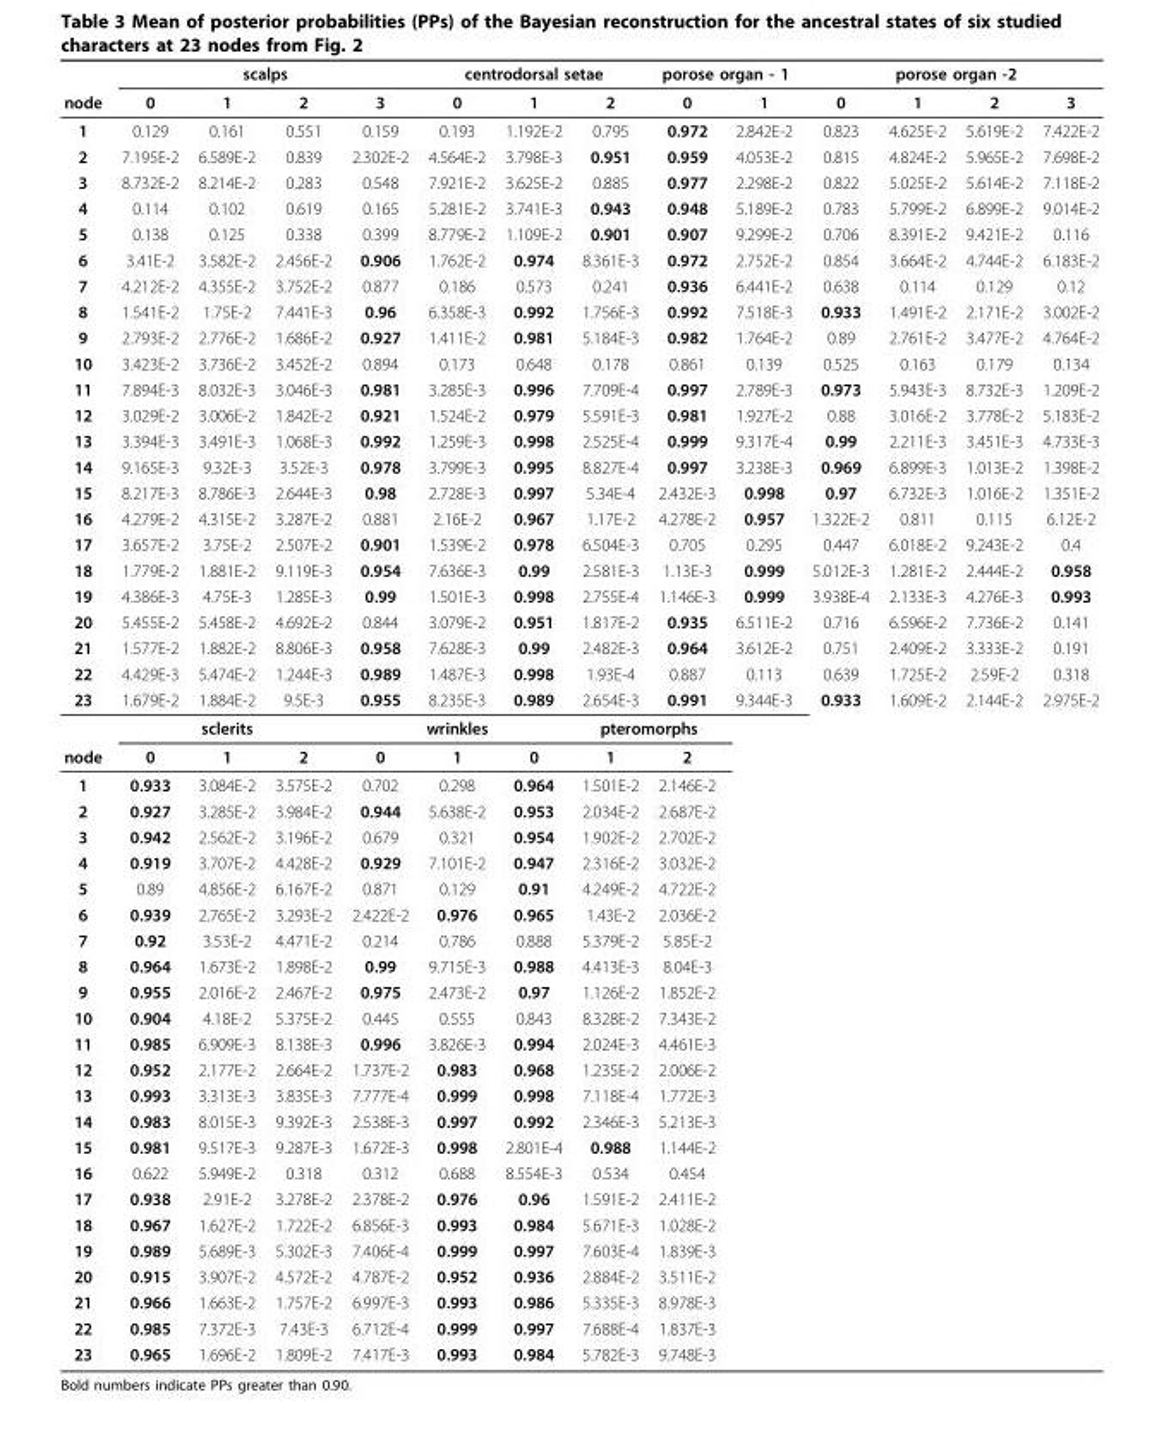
<table><thead><tr><td rowspan="2">node</td><td colspan="4">scalps</td><td colspan="3">centrodorsal setae</td><td colspan="2">porose organ - 1</td><td colspan="4">porose organ -2</td></tr><tr><td>0</td><td>1</td><td>2</td><td>3</td><td>0</td><td>1</td><td>2</td><td>0</td><td>1</td><td>0</td><td>1</td><td>2</td><td>3</td></tr></thead><tbody><tr><td>1</td><td>0.129</td><td>0.161</td><td>0.551</td><td>0.159</td><td>0.193</td><td>1.192E-2</td><td>0.795</td><td>0.972</td><td>2.842E-2</td><td>0.823</td><td>4.625E-2</td><td>5.619E-2</td><td>7.422E-2</td></tr><tr><td>2</td><td>7.195E-2</td><td>6.589E-2</td><td>0.839</td><td>2.302E-2</td><td>4.564E-2</td><td>3.798E-3</td><td>0.951</td><td>0.959</td><td>4.053E-2</td><td>0.815</td><td>4.824E-2</td><td>5.965E-2</td><td>7.698E-2</td></tr><tr><td>3</td><td>8.732E-2</td><td>8.214E-2</td><td>0.283</td><td>0.548</td><td>7.921E-2</td><td>3.625E-2</td><td>0.885</td><td>0.977</td><td>2.298E-2</td><td>0.822</td><td>5.025E-2</td><td>5.614E-2</td><td>7.118E-2</td></tr><tr><td>4</td><td>0.114</td><td>0.102</td><td>0.619</td><td>0.165</td><td>5.281E-2</td><td>3.741E-3</td><td>0.943</td><td>0.948</td><td>5.189E-2</td><td>0.783</td><td>5.799E-2</td><td>6.899E-2</td><td>9.014E-2</td></tr><tr><td>5</td><td>0.138</td><td>0.125</td><td>0.338</td><td>0.399</td><td>8.779E-2</td><td>1.109E-2</td><td>0.901</td><td>0.907</td><td>9.299E-2</td><td>0.706</td><td>8.391E-2</td><td>9.421E-2</td><td>0.116</td></tr><tr><td>6</td><td>3.41E-2</td><td>3.582E-2</td><td>2.456E-2</td><td>0.906</td><td>1.762E-2</td><td>0.974</td><td>8.361E-3</td><td>0.972</td><td>2.752E-2</td><td>0.854</td><td>3.664E-2</td><td>4.744E-2</td><td>6.183E-2</td></tr><tr><td>7</td><td>4.212E-2</td><td>4.355E-2</td><td>3.752E-2</td><td>0.877</td><td>0.186</td><td>0.573</td><td>0.241</td><td>0.936</td><td>6.441E-2</td><td>0.638</td><td>0.114</td><td>0.129</td><td>0.12</td></tr><tr><td>8</td><td>1.541E-2</td><td>1.75E-2</td><td>7.441E-3</td><td>0.96</td><td>6.358E-3</td><td>0.992</td><td>1.756E-3</td><td>0.992</td><td>7.518E-3</td><td>0.933</td><td>1.491E-2</td><td>2.171E-2</td><td>3.002E-2</td></tr><tr><td>9</td><td>2.793E-2</td><td>2.776E-2</td><td>1.686E-2</td><td>0.927</td><td>1.411E-2</td><td>0.981</td><td>5.184E-3</td><td>0.982</td><td>1.764E-2</td><td>0.89</td><td>2.761E-2</td><td>3.477E-2</td><td>4.764E-2</td></tr><tr><td>10</td><td>3.423E-2</td><td>3.736E-2</td><td>3.452E-2</td><td>0.894</td><td>0.173</td><td>0.648</td><td>0.178</td><td>0.861</td><td>0.139</td><td>0.525</td><td>0.163</td><td>0.179</td><td>0.134</td></tr><tr><td>11</td><td>7.894E-3</td><td>8.032E-3</td><td>3.046E-3</td><td>0.981</td><td>3.285E-3</td><td>0.996</td><td>7.709E-4</td><td>0.997</td><td>2.789E-3</td><td>0.973</td><td>5.943E-3</td><td>8.732E-3</td><td>1.209E-2</td></tr><tr><td>12</td><td>3.029E-2</td><td>3.006E-2</td><td>1.842E-2</td><td>0.921</td><td>1.524E-2</td><td>0.979</td><td>5.591E-3</td><td>0.981</td><td>1.927E-2</td><td>0.88</td><td>3.016E-2</td><td>3.778E-2</td><td>5.183E-2</td></tr><tr><td>13</td><td>3.394E-3</td><td>3.491E-3</td><td>1.068E-3</td><td>0.992</td><td>1.259E-3</td><td>0.998</td><td>2.525E-4</td><td>0.999</td><td>9.317E-4</td><td>0.99</td><td>2.211E-3</td><td>3.451E-3</td><td>4.733E-3</td></tr><tr><td>14</td><td>9.165E-3</td><td>9.32E-3</td><td>3.52E-3</td><td>0.978</td><td>3.799E-3</td><td>0.995</td><td>8.827E-4</td><td>0.997</td><td>3.238E-3</td><td>0.969</td><td>6.899E-3</td><td>1.013E-2</td><td>1.398E-2</td></tr><tr><td>15</td><td>8.217E-3</td><td>8.786E-3</td><td>2.644E-3</td><td>0.98</td><td>2.728E-3</td><td>0.997</td><td>5.34E-4</td><td>2.432E-3</td><td>0.998</td><td>0.97</td><td>6.732E-3</td><td>1.016E-2</td><td>1.351E-2</td></tr><tr><td>16</td><td>4.279E-2</td><td>4.315E-2</td><td>3.287E-2</td><td>0.881</td><td>2.16E-2</td><td>0.967</td><td>1.17E-2</td><td>4.278E-2</td><td>0.957</td><td>1.322E-2</td><td>0.811</td><td>0.115</td><td>6.12E-2</td></tr><tr><td>17</td><td>3.657E-2</td><td>3.75E-2</td><td>2.507E-2</td><td>0.901</td><td>1.539E-2</td><td>0.978</td><td>6.504E-3</td><td>0.705</td><td>0.295</td><td>0.447</td><td>6.018E-2</td><td>9.243E-2</td><td>0.4</td></tr><tr><td>18</td><td>1.779E-2</td><td>1.881E-2</td><td>9.119E-3</td><td>0.954</td><td>7.636E-3</td><td>0.99</td><td>2.581E-3</td><td>1.13E-3</td><td>0.999</td><td>5.012E-3</td><td>1.281E-2</td><td>2.444E-2</td><td>0.958</td></tr><tr><td>19</td><td>4.386E-3</td><td>4.75E-3</td><td>1.285E-3</td><td>0.99</td><td>1.501E-3</td><td>0.998</td><td>2.755E-4</td><td>1.146E-3</td><td>0.999</td><td>3.938E-4</td><td>2.133E-3</td><td>4.276E-3</td><td>0.993</td></tr><tr><td>20</td><td>5.455E-2</td><td>5.458E-2</td><td>4.692E-2</td><td>0.844</td><td>3.079E-2</td><td>0.951</td><td>1.817E-2</td><td>0.935</td><td>6.511E-2</td><td>0.716</td><td>6.596E-2</td><td>7.736E-2</td><td>0.141</td></tr><tr><td>21</td><td>1.577E-2</td><td>1.882E-2</td><td>8.806E-3</td><td>0.958</td><td>7.628E-3</td><td>0.99</td><td>2.482E-3</td><td>0.964</td><td>3.612E-2</td><td>0.751</td><td>2.409E-2</td><td>3.333E-2</td><td>0.191</td></tr><tr><td>22</td><td>4.429E-3</td><td>5.474E-2</td><td>1.244E-3</td><td>0.989</td><td>1.487E-3</td><td>0.998</td><td>1.93E-4</td><td>0.887</td><td>0.113</td><td>0.639</td><td>1.725E-2</td><td>2.59E-2</td><td>0.318</td></tr><tr><td rowspan="2">23</td><td>1.679E-2</td><td>1.884E-2</td><td>9.5E-3</td><td>0.955</td><td>8.235E-3</td><td>0.989</td><td>2.654E-3</td><td>0.991</td><td>9.344E-3</td><td>0.933</td><td>1.609E-2</td><td>2.144E-2</td><td>2.975E-2</td></tr><tr><td colspan="3">sclerits</td><td colspan="3">wrinkles</td><td colspan="2">pteromorphs</td><td></td><td></td><td></td><td></td><td></td></tr><tr><td>node</td><td>0</td><td>1</td><td>2</td><td>0</td><td>1</td><td>0</td><td>1</td><td>2</td><td></td><td></td><td></td><td></td><td></td></tr><tr><td>1</td><td>0.933</td><td>3.084E-2</td><td>3.575E-2</td><td>0.702</td><td>0.298</td><td>0.964</td><td>1.501E-2</td><td>2.146E-2</td><td></td><td></td><td></td><td></td><td></td></tr><tr><td>2</td><td>0.927</td><td>3.285E-2</td><td>3.984E-2</td><td>0.944</td><td>5.638E-2</td><td>0.953</td><td>2.034E-2</td><td>2.687E-2</td><td></td><td></td><td></td><td></td><td></td></tr><tr><td>3</td><td>0.942</td><td>2.562E-2</td><td>3.196E-2</td><td>0.679</td><td>0.321</td><td>0.954</td><td>1.902E-2</td><td>2.702E-2</td><td></td><td></td><td></td><td></td><td></td></tr><tr><td>4</td><td>0.919</td><td>3.707E-2</td><td>4.428E-2</td><td>0.929</td><td>7.101E-2</td><td>0.947</td><td>2.316E-2</td><td>3.032E-2</td><td></td><td></td><td></td><td></td><td></td></tr><tr><td>5</td><td>0.89</td><td>4.856E-2</td><td>6.167E-2</td><td>0.871</td><td>0.129</td><td>0.91</td><td>4.249E-2</td><td>4.722E-2</td><td></td><td></td><td></td><td></td><td></td></tr><tr><td>6</td><td>0.939</td><td>2.765E-2</td><td>3.293E-2</td><td>2.422E-2</td><td>0.976</td><td>0.965</td><td>1.43E-2</td><td>2.036E-2</td><td></td><td></td><td></td><td></td><td></td></tr><tr><td>7</td><td>0.92</td><td>3.53E-2</td><td>4.471E-2</td><td>0.214</td><td>0.786</td><td>0.888</td><td>5.379E-2</td><td>5.85E-2</td><td></td><td></td><td></td><td></td><td></td></tr><tr><td>8</td><td>0.964</td><td>1.673E-2</td><td>1.898E-2</td><td>0.99</td><td>9.715E-3</td><td>0.988</td><td>4.413E-3</td><td>8.04E-3</td><td></td><td></td><td></td><td></td><td></td></tr><tr><td>9</td><td>0.955</td><td>2.016E-2</td><td>2.467E-2</td><td>0.975</td><td>2.473E-2</td><td>0.97</td><td>1.126E-2</td><td>1.852E-2</td><td></td><td></td><td></td><td></td><td></td></tr><tr><td>10</td><td>0.904</td><td>4.18E-2</td><td>5.375E-2</td><td>0.445</td><td>0.555</td><td>0.843</td><td>8.328E-2</td><td>7.343E-2</td><td></td><td></td><td></td><td></td><td></td></tr><tr><td>11</td><td>0.985</td><td>6.909E-3</td><td>8.138E-3</td><td>0.996</td><td>3.826E-3</td><td>0.994</td><td>2.024E-3</td><td>4.461E-3</td><td></td><td></td><td></td><td></td><td></td></tr><tr><td>12</td><td>0.952</td><td>2.177E-2</td><td>2.664E-2</td><td>1.737E-2</td><td>0.983</td><td>0.968</td><td>1.235E-2</td><td>2.006E-2</td><td></td><td></td><td></td><td></td><td></td></tr><tr><td>13</td><td>0.993</td><td>3.313E-3</td><td>3.835E-3</td><td>7.777E-4</td><td>0.999</td><td>0.998</td><td>7.118E-4</td><td>1.772E-3</td><td></td><td></td><td></td><td></td><td></td></tr><tr><td>14</td><td>0.983</td><td>8.015E-3</td><td>9.392E-3</td><td>2.538E-3</td><td>0.997</td><td>0.992</td><td>2.346E-3</td><td>5.213E-3</td><td></td><td></td><td></td><td></td><td></td></tr><tr><td>15</td><td>0.981</td><td>9.517E-3</td><td>9.287E-3</td><td>1.672E-3</td><td>0.998</td><td>2.801E-4</td><td>0.988</td><td>1.144E-2</td><td></td><td></td><td></td><td></td><td></td></tr><tr><td>16</td><td>0.622</td><td>5.949E-2</td><td>0.318</td><td>0.312</td><td>0.688</td><td>8.554E-3</td><td>0.534</td><td>0.454</td><td></td><td></td><td></td><td></td><td></td></tr><tr><td>17</td><td>0.938</td><td>2.91E-2</td><td>3.278E-2</td><td>2.378E-2</td><td>0.976</td><td>0.96</td><td>1.591E-2</td><td>2.411E-2</td><td></td><td></td><td></td><td></td><td></td></tr><tr><td>18</td><td>0.967</td><td>1.627E-2</td><td>1.722E-2</td><td>6.856E-3</td><td>0.993</td><td>0.984</td><td>5.671E-3</td><td>1.028E-2</td><td></td><td></td><td></td><td></td><td></td></tr><tr><td>19</td><td>0.989</td><td>5.689E-3</td><td>5.302E-3</td><td>7.406E-4</td><td>0.999</td><td>0.997</td><td>7.603E-4</td><td>1.839E-3</td><td></td><td></td><td></td><td></td><td></td></tr><tr><td>20</td><td>0.915</td><td>3.907E-2</td><td>4.572E-2</td><td>4.787E-2</td><td>0.952</td><td>0.936</td><td>2.884E-2</td><td>3.511E-2</td><td></td><td></td><td></td><td></td><td></td></tr><tr><td>21</td><td>0.966</td><td>1.663E-2</td><td>1.757E-2</td><td>6.997E-3</td><td>0.993</td><td>0.986</td><td>5.335E-3</td><td>8.978E-3</td><td></td><td></td><td></td><td></td><td></td></tr><tr><td>22</td><td>0.985</td><td>7.372E-3</td><td>7.43E-3</td><td>6.712E-4</td><td>0.999</td><td>0.997</td><td>7.688E-4</td><td>1.837E-3</td><td></td><td></td><td></td><td></td><td></td></tr><tr><td>23</td><td>0.965</td><td>1.696E-2</td><td>1.809E-2</td><td>7.417E-3</td><td>0.993</td><td>0.984</td><td>5.782E-3</td><td>9.748E-3</td><td></td><td></td><td></td><td></td><td></td></tr></tbody></table>